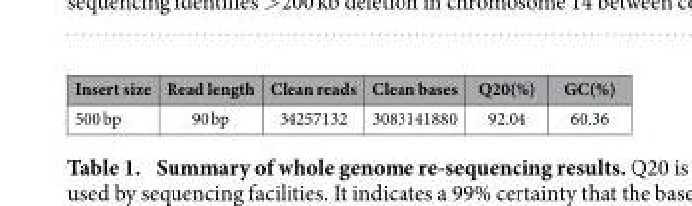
<table><thead><tr><td>Insert size</td><td>Read length</td><td>Clean reads</td><td>Clean bases</td><td>Q20(%)</td><td>GC(%)</td></tr></thead><tbody><tr><td>500 bp</td><td>90 bp</td><td>34257132</td><td>3083141880</td><td>92.04</td><td>60.36</td></tr></tbody></table>